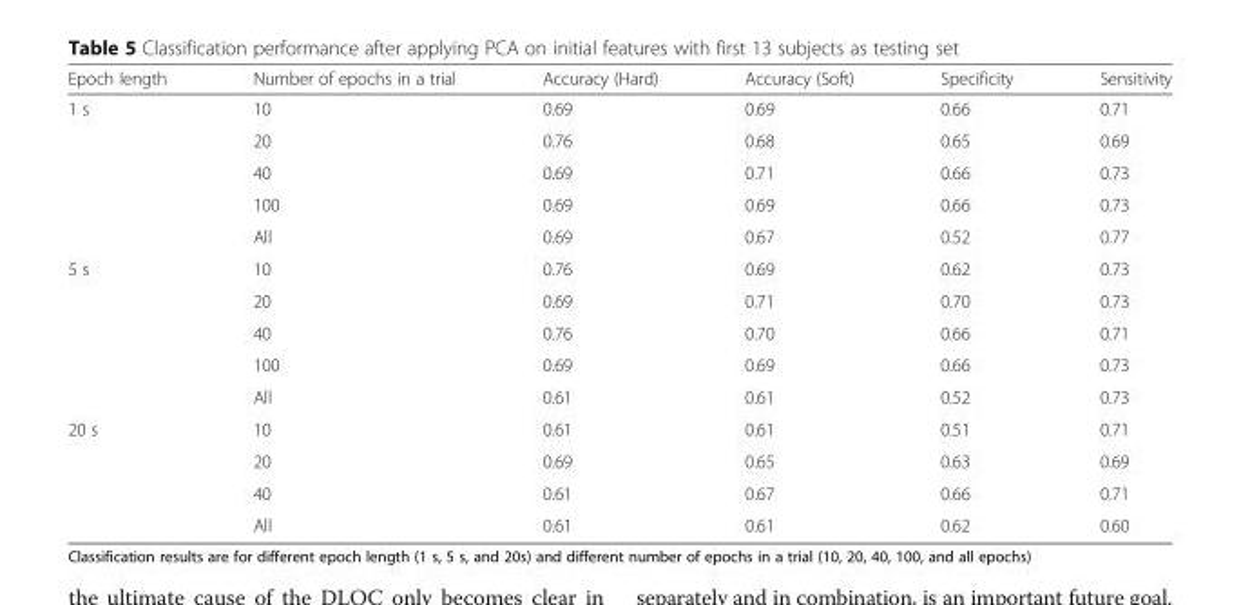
<table><thead><tr><td>Epoch length</td><td>Number of epochs in a trial</td><td>Accuracy (Hard)</td><td>Accuracy (Soft)</td><td>Specificity</td><td>Sensitivity</td></tr></thead><tbody><tr><td rowspan="5">1 s</td><td>10</td><td>0.69</td><td>0.69</td><td>0.66</td><td>0.71</td></tr><tr><td>20</td><td>0.76</td><td>0.68</td><td>0.65</td><td>0.69</td></tr><tr><td>40</td><td>0.69</td><td>0.71</td><td>0.66</td><td>0.73</td></tr><tr><td>100</td><td>0.69</td><td>0.69</td><td>0.66</td><td>0.73</td></tr><tr><td>All</td><td>0.69</td><td>0.67</td><td>0.52</td><td>0.77</td></tr><tr><td rowspan="5">5 s</td><td>10</td><td>0.76</td><td>0.69</td><td>0.62</td><td>0.73</td></tr><tr><td>20</td><td>0.69</td><td>0.71</td><td>0.70</td><td>0.73</td></tr><tr><td>40</td><td>0.76</td><td>0.70</td><td>0.66</td><td>0.71</td></tr><tr><td>100</td><td>0.69</td><td>0.69</td><td>0.66</td><td>0.73</td></tr><tr><td>All</td><td>0.61</td><td>0.61</td><td>0.52</td><td>0.73</td></tr><tr><td rowspan="4">20 s</td><td>10</td><td>0.61</td><td>0.61</td><td>0.51</td><td>0.71</td></tr><tr><td>20</td><td>0.69</td><td>0.65</td><td>0.63</td><td>0.69</td></tr><tr><td>40</td><td>0.61</td><td>0.67</td><td>0.66</td><td>0.71</td></tr><tr><td>All</td><td>0.61</td><td>0.61</td><td>0.62</td><td>0.60</td></tr></tbody></table>